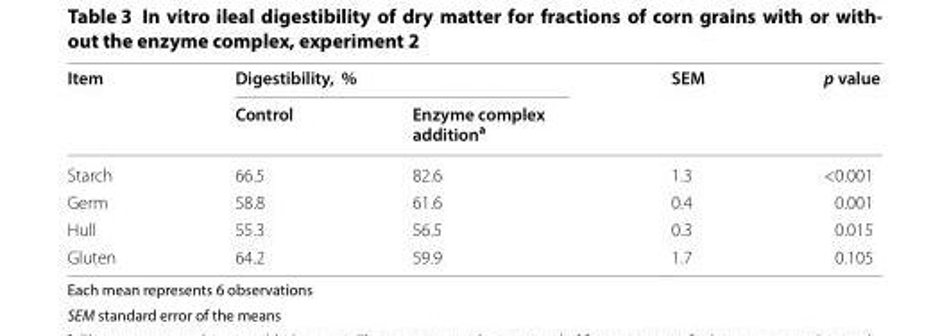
<table><thead><tr><td rowspan="2">Item</td><td colspan="2">Digestibility, %</td><td rowspan="2">SEM</td><td rowspan="2">p value</td></tr><tr><td>Control</td><td>Enzyme complex addition<sup>a</sup></td></tr></thead><tbody><tr><td>Starch</td><td>66.5</td><td>82.6</td><td>1.3</td><td>&lt;0.001</td></tr><tr><td>Germ</td><td>58.8</td><td>61.6</td><td>0.4</td><td>0.001</td></tr><tr><td>Hull</td><td>55.3</td><td>56.5</td><td>0.3</td><td>0.015</td></tr><tr><td>Gluten</td><td>64.2</td><td>59.9</td><td>1.7</td><td>0.105</td></tr></tbody></table>